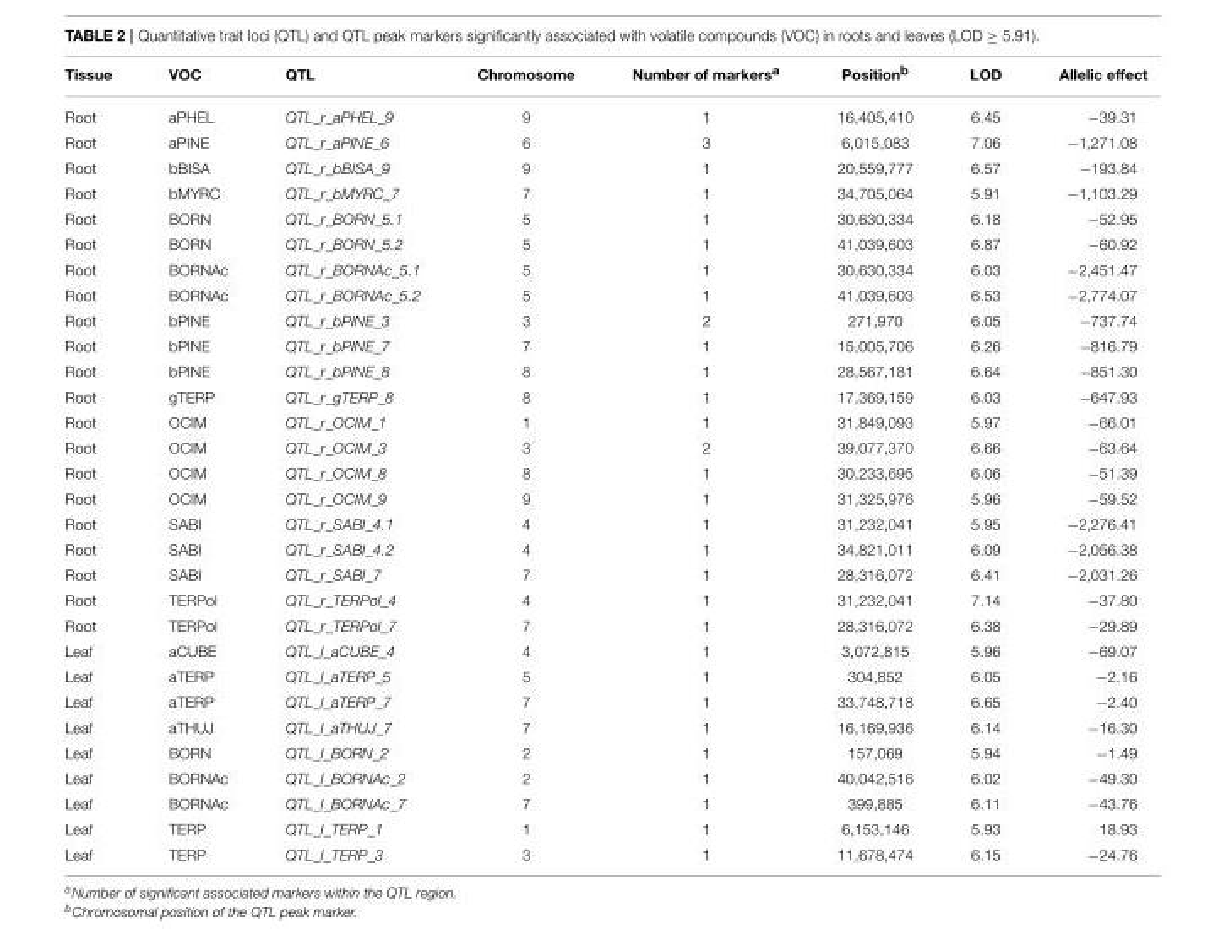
<table><thead><tr><td>Tissue</td><td>VOC</td><td>QTL</td><td>Chromosome</td><td>Number of markers<sup>a</sup></td><td>Position<sup>b</sup></td><td>LOD</td><td>Allelic effect</td></tr></thead><tbody><tr><td>Root</td><td>aPHEL</td><td>QTL_r_aPHEL_9</td><td>9</td><td>1</td><td>16,405,410</td><td>6.45</td><td>−39.31</td></tr><tr><td>Root</td><td>aPINE</td><td>QTL_r_aPINE_6</td><td>6</td><td>3</td><td>6,015,083</td><td>7.06</td><td>−1,271.08</td></tr><tr><td>Root</td><td>bBISA</td><td>QTL_r_bBISA_9</td><td>9</td><td>1</td><td>20,559,777</td><td>6.57</td><td>−193.84</td></tr><tr><td>Root</td><td>bMYRC</td><td>QTL_r_bMYRC_7</td><td>7</td><td>1</td><td>34,705,064</td><td>5.91</td><td>−1,103.29</td></tr><tr><td>Root</td><td>BORN</td><td>QTL_r_BORN_5.1</td><td>5</td><td>1</td><td>30,630,334</td><td>6.18</td><td>−52.95</td></tr><tr><td>Root</td><td>BORN</td><td>QTL_r_BORN_5.2</td><td>5</td><td>1</td><td>41,039,603</td><td>6.87</td><td>−60.92</td></tr><tr><td>Root</td><td>BORNAc</td><td>QTL_r_BORNAc_5.1</td><td>5</td><td>1</td><td>30,630,334</td><td>6.03</td><td>−2,451.47</td></tr><tr><td>Root</td><td>BORNAc</td><td>QTL_r_BORNAc_5.2</td><td>5</td><td>1</td><td>41,039,603</td><td>6.53</td><td>−2,774.07</td></tr><tr><td>Root</td><td>bPINE</td><td>QTL_r_bPINE_3</td><td>3</td><td>2</td><td>271,970</td><td>6.05</td><td>−737.74</td></tr><tr><td>Root</td><td>bPINE</td><td>QTL_r_bPINE_7</td><td>7</td><td>1</td><td>15,005,706</td><td>6.26</td><td>−816.79</td></tr><tr><td>Root</td><td>bPINE</td><td>QTL_r_bPINE_8</td><td>8</td><td>1</td><td>28,567,181</td><td>6.64</td><td>−851.30</td></tr><tr><td>Root</td><td>gTERP</td><td>QTL_r_gTERP_8</td><td>8</td><td>1</td><td>17,369,159</td><td>6.03</td><td>−647.93</td></tr><tr><td>Root</td><td>OCIM</td><td>QTL_r_OCIM_1</td><td>1</td><td>1</td><td>31,849,093</td><td>5.97</td><td>−66.01</td></tr><tr><td>Root</td><td>OCIM</td><td>QTL_r_OCIM_3</td><td>3</td><td>2</td><td>39,077,370</td><td>6.66</td><td>−63.64</td></tr><tr><td>Root</td><td>OCIM</td><td>QTL_r_OCIM_8</td><td>8</td><td>1</td><td>30,233,695</td><td>6.06</td><td>−51.39</td></tr><tr><td>Root</td><td>OCIM</td><td>QTL_r_OCIM_9</td><td>9</td><td>1</td><td>31,325,976</td><td>5.96</td><td>−59.52</td></tr><tr><td>Root</td><td>SABI</td><td>QTL_r_SABI_4.1</td><td>4</td><td>1</td><td>31,232,041</td><td>5.95</td><td>−2,276.41</td></tr><tr><td>Root</td><td>SABI</td><td>QTL_r_SABI_4.2</td><td>4</td><td>1</td><td>34,821,011</td><td>6.09</td><td>−2,056.38</td></tr><tr><td>Root</td><td>SABI</td><td>QTL_r_SABI_7</td><td>7</td><td>1</td><td>28,316,072</td><td>6.41</td><td>−2,031.26</td></tr><tr><td>Root</td><td>TERPol</td><td>QTL_r_TERPol_4</td><td>4</td><td>1</td><td>31,232,041</td><td>7.14</td><td>−37.80</td></tr><tr><td>Root</td><td>TERPol</td><td>QTL_r_TERPol_7</td><td>7</td><td>1</td><td>28,316,072</td><td>6.38</td><td>−29.89</td></tr><tr><td>Leaf</td><td>aCUBE</td><td>QTL_l_aCUBE_4</td><td>4</td><td>1</td><td>3,072,815</td><td>5.96</td><td>−69.07</td></tr><tr><td>Leaf</td><td>aTERP</td><td>QTL_l_aTERP_5</td><td>5</td><td>1</td><td>304,852</td><td>6.05</td><td>−2.16</td></tr><tr><td>Leaf</td><td>aTERP</td><td>QTL_l_aTERP_7</td><td>7</td><td>1</td><td>33,748,718</td><td>6.65</td><td>−2.40</td></tr><tr><td>Leaf</td><td>aTHUJ</td><td>QTL_l_aTHUJ_7</td><td>7</td><td>1</td><td>16,169,936</td><td>6.14</td><td>−16.30</td></tr><tr><td>Leaf</td><td>BORN</td><td>QTL_l_BORN_2</td><td>2</td><td>1</td><td>157,069</td><td>5.94</td><td>−1.49</td></tr><tr><td>Leaf</td><td>BORNAc</td><td>QTL_l_BORNAc_2</td><td>2</td><td>1</td><td>40,042,516</td><td>6.02</td><td>−49.30</td></tr><tr><td>Leaf</td><td>BORNAc</td><td>QTL_l_BORNAc_7</td><td>7</td><td>1</td><td>399,885</td><td>6.11</td><td>−43.76</td></tr><tr><td>Leaf</td><td>TERP</td><td>QTL_l_TERP_1</td><td>1</td><td>1</td><td>6,153,146</td><td>5.93</td><td>18.93</td></tr><tr><td>Leaf</td><td>TERP</td><td>QTL_l_TERP_3</td><td>3</td><td>1</td><td>11,678,474</td><td>6.15</td><td>−24.76</td></tr></tbody></table>